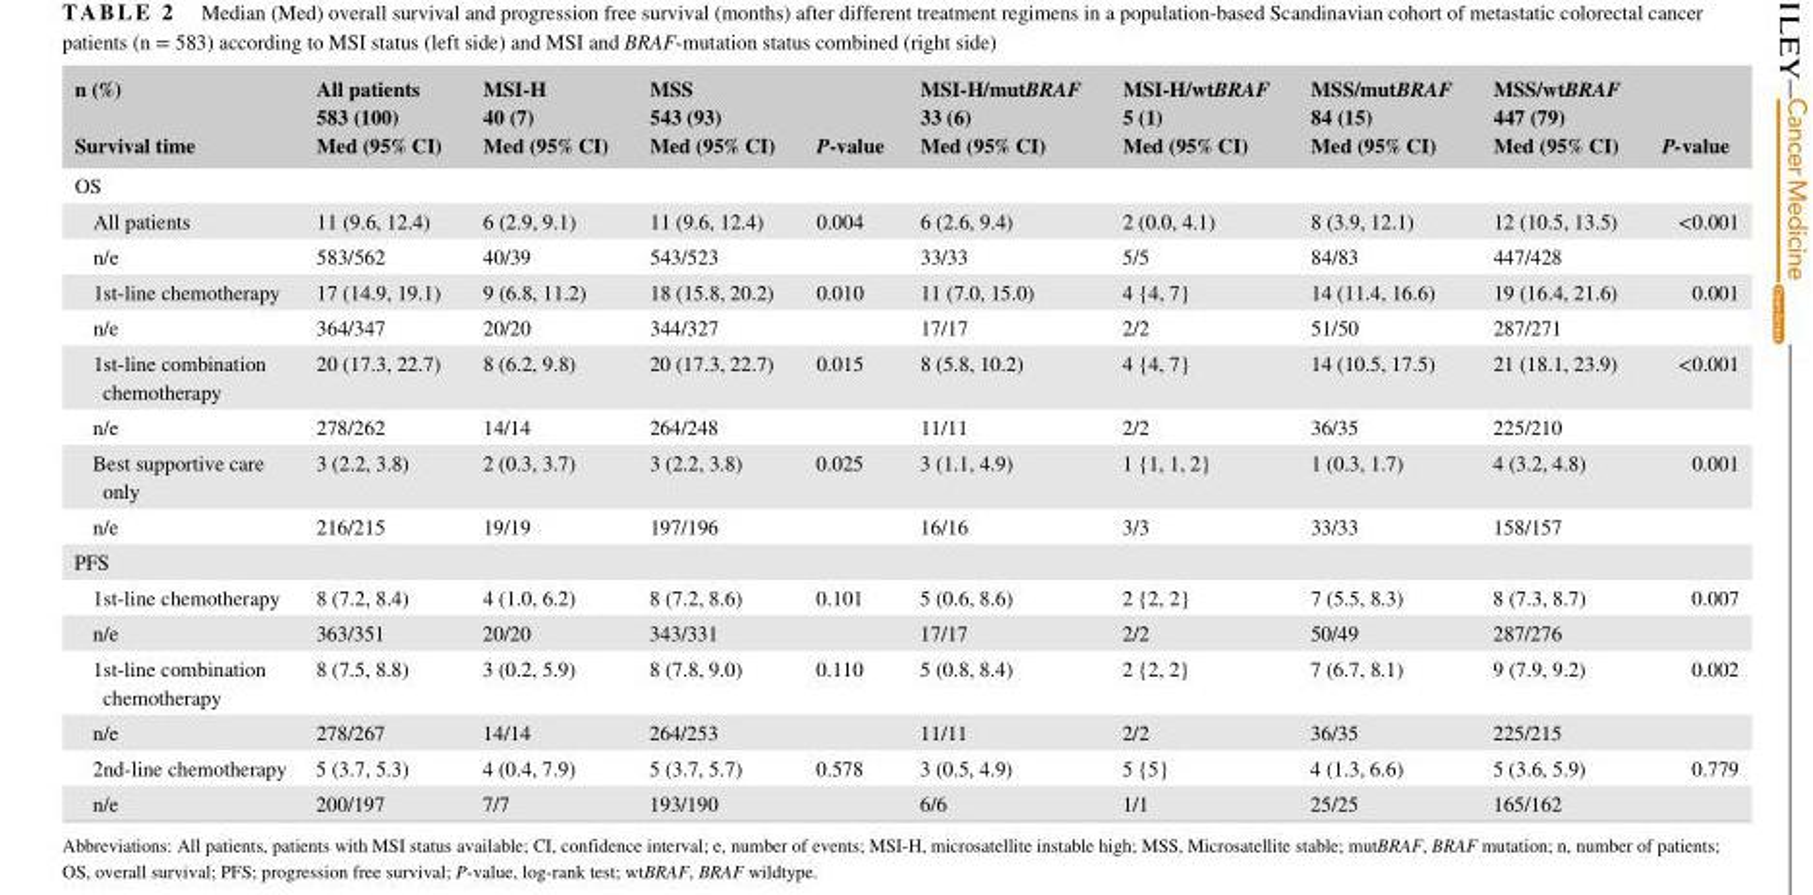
<table><thead><tr><td rowspan="2">n (%) Survival time</td><td rowspan="2">All patients 583 (100) Med (95% CI)</td><td rowspan="2">MSI‐H 40 (7) Med (95% CI)</td><td rowspan="2">MSS 543 (93) Med (95% CI)</td><td rowspan="2">P‐value</td><td rowspan="2">MSI‐H/mutBRAF 33 (6) Med (95% CI)</td><td rowspan="2">MSI‐H/wtBRAF 5 (1) Med (95% CI)</td><td rowspan="2">MSS/mutBRAF 84 (15) Med (95% CI)</td><td rowspan="2">MSS/wtBRAF 447 (79) Med (95% CI)</td><td rowspan="2">P‐value</td></tr><tr></tr></thead><tbody><tr><td colspan="10">OS</td></tr><tr><td>All patients</td><td>11 (9.6, 12.4)</td><td>6 (2.9, 9.1)</td><td>11 (9.6, 12.4)</td><td>0.004</td><td>6 (2.6, 9.4)</td><td>2 (0.0, 4.1)</td><td>8 (3.9, 12.1)</td><td>12 (10.5, 13.5)</td><td>&lt;0.001</td></tr><tr><td>n/e</td><td>583/562</td><td>40/39</td><td>543/523</td><td></td><td>33/33</td><td>5/5</td><td>84/83</td><td>447/428</td><td></td></tr><tr><td>1st‐line chemotherapy</td><td>17 (14.9, 19.1)</td><td>9 (6.8, 11.2)</td><td>18 (15.8, 20.2)</td><td>0.010</td><td>11 (7.0, 15.0)</td><td>4 {4, 7}</td><td>14 (11.4, 16.6)</td><td>19 (16.4, 21.6)</td><td>0.001</td></tr><tr><td>n/e</td><td>364/347</td><td>20/20</td><td>344/327</td><td></td><td>17/17</td><td>2/2</td><td>51/50</td><td>287/271</td><td></td></tr><tr><td>1st‐line combination chemotherapy</td><td>20 (17.3, 22.7)</td><td>8 (6.2, 9.8)</td><td>20 (17.3, 22.7)</td><td>0.015</td><td>8 (5.8, 10.2)</td><td>4 {4, 7}</td><td>14 (10.5, 17.5)</td><td>21 (18.1, 23.9)</td><td>&lt;0.001</td></tr><tr><td>n/e</td><td>278/262</td><td>14/14</td><td>264/248</td><td></td><td>11/11</td><td>2/2</td><td>36/35</td><td>225/210</td><td></td></tr><tr><td>Best supportive care only</td><td>3 (2.2, 3.8)</td><td>2 (0.3, 3.7)</td><td>3 (2.2, 3.8)</td><td>0.025</td><td>3 (1.1, 4.9)</td><td>1 {1, 1, 2}</td><td>1 (0.3, 1.7)</td><td>4 (3.2, 4.8)</td><td>0.001</td></tr><tr><td>n/e</td><td>216/215</td><td>19/19</td><td>197/196</td><td></td><td>16/16</td><td>3/3</td><td>33/33</td><td>158/157</td><td></td></tr><tr><td colspan="10">PFS</td></tr><tr><td>1st‐line chemotherapy</td><td>8 (7.2, 8.4)</td><td>4 (1.0, 6.2)</td><td>8 (7.2, 8.6)</td><td>0.101</td><td>5 (0.6, 8.6)</td><td>2 {2, 2}</td><td>7 (5.5, 8.3)</td><td>8 (7.3, 8.7)</td><td>0.007</td></tr><tr><td>n/e</td><td>363/351</td><td>20/20</td><td>343/331</td><td></td><td>17/17</td><td>2/2</td><td>50/49</td><td>287/276</td><td></td></tr><tr><td>1st‐line combination chemotherapy</td><td>8 (7.5, 8.8)</td><td>3 (0.2, 5.9)</td><td>8 (7.8, 9.0)</td><td>0.110</td><td>5 (0.8, 8.4)</td><td>2 {2, 2}</td><td>7 (6.7, 8.1)</td><td>9 (7.9, 9.2)</td><td>0.002</td></tr><tr><td>n/e</td><td>278/267</td><td>14/14</td><td>264/253</td><td></td><td>11/11</td><td>2/2</td><td>36/35</td><td>225/215</td><td></td></tr><tr><td>2nd‐line chemotherapy</td><td>5 (3.7, 5.3)</td><td>4 (0.4, 7.9)</td><td>5 (3.7, 5.7)</td><td>0.578</td><td>3 (0.5, 4.9)</td><td>5 {5}</td><td>4 (1.3, 6.6)</td><td>5 (3.6, 5.9)</td><td>0.779</td></tr><tr><td>n/e</td><td>200/197</td><td>7/7</td><td>193/190</td><td></td><td>6/6</td><td>1/1</td><td>25/25</td><td>165/162</td><td></td></tr></tbody></table>